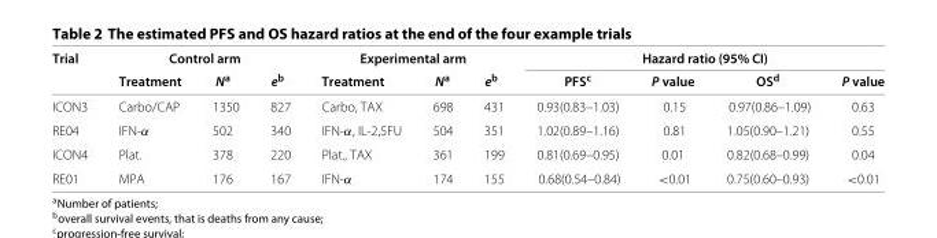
<table><thead><tr><td rowspan="2">Trial</td><td colspan="3">Control arm</td><td colspan="3">Experimental arm</td><td colspan="4">Hazard ratio (95% CI)</td></tr><tr><td>Treatment</td><td>N<sup>a</sup></td><td>e<sup>b</sup></td><td>Treatment</td><td>N<sup>a</sup></td><td>e<sup>b</sup></td><td>PFS<sup>c</sup></td><td>P value</td><td>OS<sup>d</sup></td><td>P value</td></tr></thead><tbody><tr><td>ICON3</td><td>Carbo/CAP</td><td>1350</td><td>827</td><td>Carbo, TAX</td><td>698</td><td>431</td><td>0.93(0.83–1.03)</td><td>0.15</td><td>0.97(0.86–1.09)</td><td>0.63</td></tr><tr><td>RE04</td><td>IFN-α</td><td>502</td><td>340</td><td>IFN-α, IL-2,5FU</td><td>504</td><td>351</td><td>1.02(0.89–1.16)</td><td>0.81</td><td>1.05(0.90–1.21)</td><td>0.55</td></tr><tr><td>ICON4</td><td>Plat.</td><td>378</td><td>220</td><td>Plat., TAX</td><td>361</td><td>199</td><td>0.81(0.69–0.95)</td><td>0.01</td><td>0.82(0.68–0.99)</td><td>0.04</td></tr><tr><td>RE01</td><td>MPA</td><td>176</td><td>167</td><td>IFN-α</td><td>174</td><td>155</td><td>0.68(0.54–0.84)</td><td>&lt;0.01</td><td>0.75(0.60–0.93)</td><td>&lt;0.01</td></tr></tbody></table>